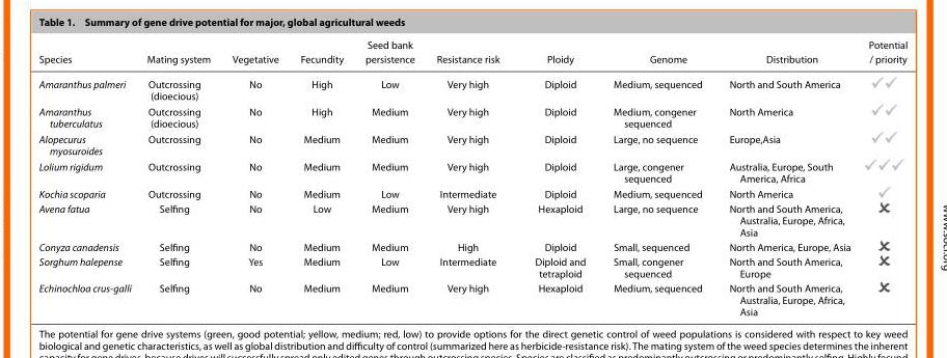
<table><thead><tr><td>Species</td><td>Mating system</td><td>Vegetative</td><td>Fecundity</td><td>Seed bank persistence</td><td>Resistance risk</td><td>Ploidy</td><td>Genome</td><td>Distribution</td><td>Potential / priority</td></tr></thead><tbody><tr><td>Amaranthus palmeri</td><td>Outcrossing (dioecious)</td><td>No</td><td>High</td><td>Low</td><td>Very high</td><td>Diploid</td><td>Medium, sequenced</td><td>North and South America</td><td></td></tr><tr><td>Amaranthus tuberculatus</td><td>Outcrossing (dioecious)</td><td>No</td><td>High</td><td>Medium</td><td>Very high</td><td>Diploid</td><td>Medium, congener sequenced</td><td>North America</td><td></td></tr><tr><td>Alopecurus myosuroides</td><td>Outcrossing</td><td>No</td><td>Medium</td><td>Medium</td><td>Very high</td><td>Diploid</td><td>Large, no sequence</td><td>Europe,Asia</td><td></td></tr><tr><td>Lolium rigidum</td><td>Outcrossing</td><td>No</td><td>Medium</td><td>Medium</td><td>Very high</td><td>Diploid</td><td>Large, congener sequenced</td><td>Australia, Europe, South America, Africa</td><td></td></tr><tr><td>Kochia scoparia</td><td>Outcrossing</td><td>No</td><td>Medium</td><td>Low</td><td>Intermediate</td><td>Diploid</td><td>Medium, sequenced</td><td>North America</td><td></td></tr><tr><td>Avena fatua</td><td>Selfing</td><td>No</td><td>Low</td><td>Medium</td><td>Very high</td><td>Hexaploid</td><td>Large, no sequence</td><td>North and South America, Australia, Europe, Africa, Asia</td><td></td></tr><tr><td>Conyza canadensis</td><td>Selfing</td><td>No</td><td>Medium</td><td>Medium</td><td>High</td><td>Diploid</td><td>Small, sequenced</td><td>North America, Europe, Asia</td><td></td></tr><tr><td>Sorghum halepense</td><td>Selfing</td><td>Yes</td><td>Medium</td><td>Low</td><td>Intermediate</td><td>Diploid and tetraploid</td><td>Small, congener sequenced</td><td>North and South America, Europe</td><td></td></tr><tr><td>Echinochloa crus-galli</td><td>Selfing</td><td>No</td><td>Medium</td><td>Medium</td><td>Very high</td><td>Hexaploid</td><td>Medium, sequenced</td><td>North and South America, Australia, Europe, Africa, Asia</td><td></td></tr></tbody></table>